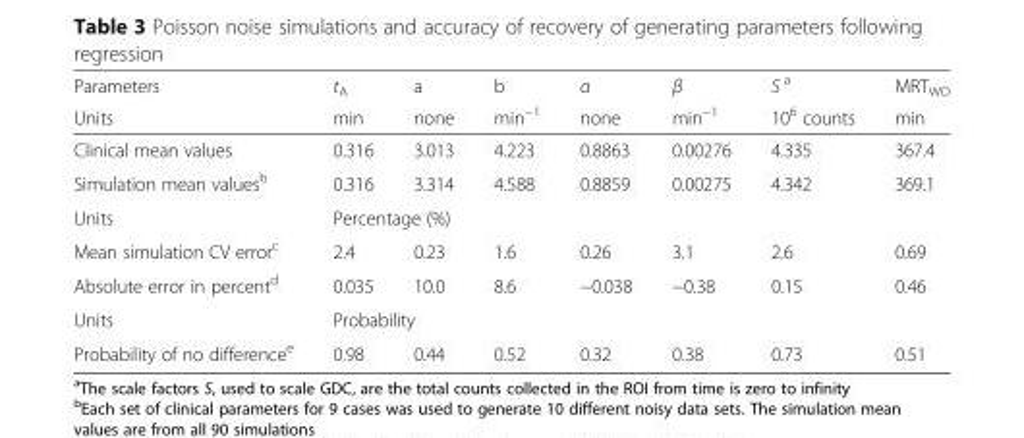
<table><thead><tr><td rowspan="2">Parameters Units</td><td rowspan="2">t<sub>A</sub> min</td><td rowspan="2">a none</td><td rowspan="2">b min<sup>−1</sup></td><td rowspan="2">α none</td><td rowspan="2">β min<sup>−1</sup></td><td rowspan="2">S <sup>a</sup> 10<sup>6</sup> counts</td><td rowspan="2">MRT<sub>WO</sub> min</td></tr><tr></tr></thead><tbody><tr><td>Clinical mean values</td><td>0.316</td><td>3.013</td><td>4.223</td><td>0.8863</td><td>0.00276</td><td>4.335</td><td>367.4</td></tr><tr><td>Simulation mean values<sup>b</sup></td><td>0.316</td><td>3.314</td><td>4.588</td><td>0.8859</td><td>0.00275</td><td>4.342</td><td>369.1</td></tr><tr><td>Units</td><td colspan="7">Percentage (%)</td></tr><tr><td>Mean simulation CV error<sup>c</sup></td><td>2.4</td><td>0.23</td><td>1.6</td><td>0.26</td><td>3.1</td><td>2.6</td><td>0.69</td></tr><tr><td>Absolute error in percent<sup>d</sup></td><td>0.035</td><td>10.0</td><td>8.6</td><td>−0.038</td><td>−0.38</td><td>0.15</td><td>0.46</td></tr><tr><td>Units</td><td colspan="7">Probability</td></tr><tr><td>Probability of no difference<sup>e</sup></td><td>0.98</td><td>0.44</td><td>0.52</td><td>0.32</td><td>0.38</td><td>0.73</td><td>0.51</td></tr></tbody></table>